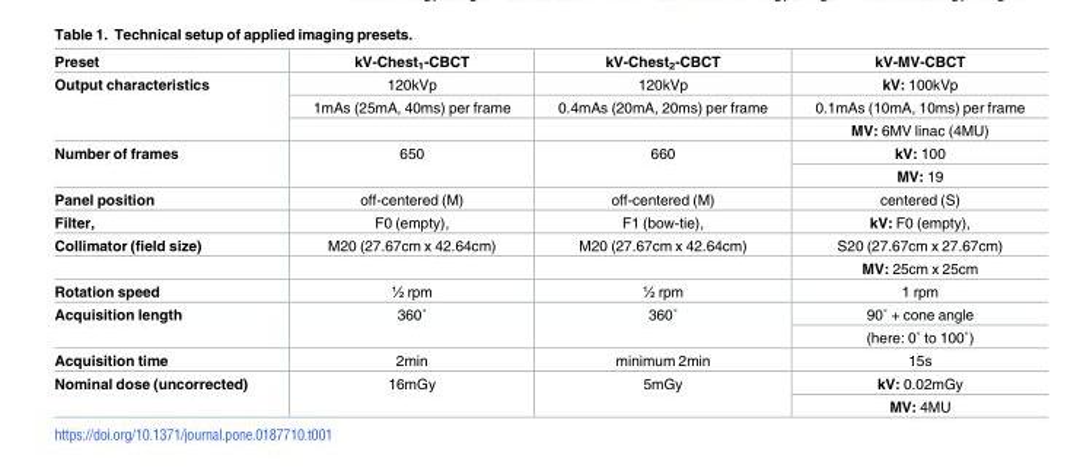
<table><thead><tr><td>Preset</td><td>kV-Chest<sub>1</sub>-CBCT</td><td>kV-Chest<sub>2</sub>-CBCT</td><td>kV-MV-CBCT</td></tr></thead><tbody><tr><td rowspan="3">Output characteristics</td><td>120kVp</td><td>120kVp</td><td>kV: 100kVp</td></tr><tr><td>1mAs (25mA, 40ms) per frame</td><td>0.4mAs (20mA, 20ms) per frame</td><td>0.1mAs (10mA, 10ms) per frame</td></tr><tr><td></td><td></td><td>MV: 6MV linac (4MU)</td></tr><tr><td rowspan="2">Number of frames</td><td rowspan="2">650</td><td rowspan="2">660</td><td>kV: 100</td></tr><tr><td>MV: 19</td></tr><tr><td>Panel position</td><td>off-centered (M)</td><td>off-centered (M)</td><td>centered (S)</td></tr><tr><td>Filter,</td><td>F0 (empty),</td><td>F1 (bow-tie),</td><td>kV: F0 (empty),</td></tr><tr><td rowspan="2">Collimator (field size)</td><td>M20 (27.67cm x 42.64cm)</td><td>M20 (27.67cm x 42.64cm)</td><td>S20 (27.67cm x 27.67cm)</td></tr><tr><td></td><td></td><td>MV: 25cm x 25cm</td></tr><tr><td>Rotation speed</td><td>½ rpm</td><td>½ rpm</td><td>1 rpm</td></tr><tr><td rowspan="2">Acquisition length</td><td rowspan="2">360˚</td><td rowspan="2">360˚</td><td>90˚ + cone angle</td></tr><tr><td>(here: 0˚ to 100˚)</td></tr><tr><td>Acquisition time</td><td>2min</td><td>minimum 2min</td><td>15s</td></tr><tr><td rowspan="2">Nominal dose (uncorrected)</td><td rowspan="2">16mGy</td><td rowspan="2">5mGy</td><td>kV: 0.02mGy</td></tr><tr><td>MV: 4MU</td></tr></tbody></table>